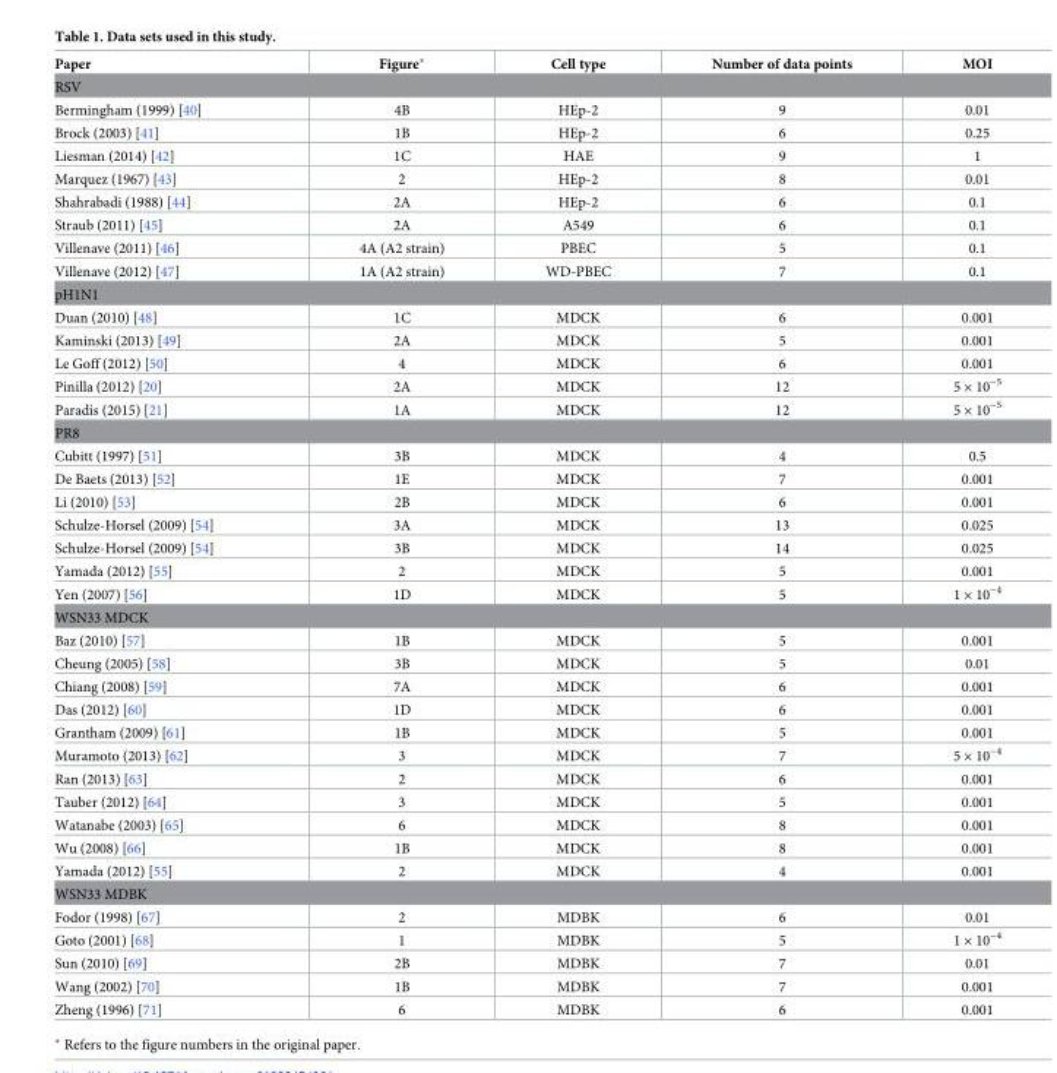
<table><thead><tr><td>Paper</td><td>Figure*</td><td>Cell type</td><td>Number of data points</td><td>MOI</td></tr></thead><tbody><tr><td colspan="5">RSV</td></tr><tr><td>Bermingham (1999) [40]</td><td>4B</td><td>HEp-2</td><td>9</td><td>0.01</td></tr><tr><td>Brock (2003) [41]</td><td>1B</td><td>HEp-2</td><td>6</td><td>0.25</td></tr><tr><td>Liesman (2014) [42]</td><td>1C</td><td>HAE</td><td>9</td><td>1</td></tr><tr><td>Marquez (1967) [43]</td><td>2</td><td>HEp-2</td><td>8</td><td>0.01</td></tr><tr><td>Shahrabadi (1988) [44]</td><td>2A</td><td>HEp-2</td><td>6</td><td>0.1</td></tr><tr><td>Straub (2011) [45]</td><td>2A</td><td>A549</td><td>6</td><td>0.1</td></tr><tr><td>Villenave (2011) [46]</td><td>4A (A2 strain)</td><td>PBEC</td><td>5</td><td>0.1</td></tr><tr><td>Villenave (2012) [47]</td><td>1A (A2 strain)</td><td>WD-PBEC</td><td>7</td><td>0.1</td></tr><tr><td colspan="5">pH1N1</td></tr><tr><td>Duan (2010) [48]</td><td>1C</td><td>MDCK</td><td>6</td><td>0.001</td></tr><tr><td>Kaminski (2013) [49]</td><td>2A</td><td>MDCK</td><td>5</td><td>0.001</td></tr><tr><td>Le Goff (2012) [50]</td><td>4</td><td>MDCK</td><td>6</td><td>0.001</td></tr><tr><td>Pinilla (2012) [20]</td><td>2A</td><td>MDCK</td><td>12</td><td>5 × 10<sup>−5</sup></td></tr><tr><td>Paradis (2015) [21]</td><td>1A</td><td>MDCK</td><td>12</td><td>5 × 10<sup>−5</sup></td></tr><tr><td colspan="5">PR8</td></tr><tr><td>Cubitt (1997) [51]</td><td>3B</td><td>MDCK</td><td>4</td><td>0.5</td></tr><tr><td>De Baets (2013) [52]</td><td>1E</td><td>MDCK</td><td>7</td><td>0.001</td></tr><tr><td>Li (2010) [53]</td><td>2B</td><td>MDCK</td><td>6</td><td>0.001</td></tr><tr><td>Schulze-Horsel (2009) [54]</td><td>3A</td><td>MDCK</td><td>13</td><td>0.025</td></tr><tr><td>Schulze-Horsel (2009) [54]</td><td>3B</td><td>MDCK</td><td>14</td><td>0.025</td></tr><tr><td>Yamada (2012) [55]</td><td>2</td><td>MDCK</td><td>5</td><td>0.001</td></tr><tr><td>Yen (2007) [56]</td><td>1D</td><td>MDCK</td><td>5</td><td>1 × 10<sup>−4</sup></td></tr><tr><td colspan="5">WSN33 MDCK</td></tr><tr><td>Baz (2010) [57]</td><td>1B</td><td>MDCK</td><td>5</td><td>0.001</td></tr><tr><td>Cheung (2005) [58]</td><td>3B</td><td>MDCK</td><td>5</td><td>0.01</td></tr><tr><td>Chiang (2008) [59]</td><td>7A</td><td>MDCK</td><td>6</td><td>0.001</td></tr><tr><td>Das (2012) [60]</td><td>1D</td><td>MDCK</td><td>6</td><td>0.001</td></tr><tr><td>Grantham (2009) [61]</td><td>1B</td><td>MDCK</td><td>5</td><td>0.001</td></tr><tr><td>Muramoto (2013) [62]</td><td>3</td><td>MDCK</td><td>7</td><td>5 × 10<sup>−4</sup></td></tr><tr><td>Ran (2013) [63]</td><td>2</td><td>MDCK</td><td>6</td><td>0.001</td></tr><tr><td>Tauber (2012) [64]</td><td>3</td><td>MDCK</td><td>5</td><td>0.001</td></tr><tr><td>Watanabe (2003) [65]</td><td>6</td><td>MDCK</td><td>8</td><td>0.001</td></tr><tr><td>Wu (2008) [66]</td><td>1B</td><td>MDCK</td><td>8</td><td>0.001</td></tr><tr><td>Yamada (2012) [55]</td><td>2</td><td>MDCK</td><td>4</td><td>0.001</td></tr><tr><td colspan="5">WSN33 MDBK</td></tr><tr><td>Fodor (1998) [67]</td><td>2</td><td>MDBK</td><td>6</td><td>0.01</td></tr><tr><td>Goto (2001) [68]</td><td>1</td><td>MDBK</td><td>5</td><td>1 × 10<sup>−4</sup></td></tr><tr><td>Sun (2010) [69]</td><td>2B</td><td>MDBK</td><td>7</td><td>0.01</td></tr><tr><td>Wang (2002) [70]</td><td>1B</td><td>MDBK</td><td>7</td><td>0.001</td></tr><tr><td>Zheng (1996) [71]</td><td>6</td><td>MDBK</td><td>6</td><td>0.001</td></tr></tbody></table>